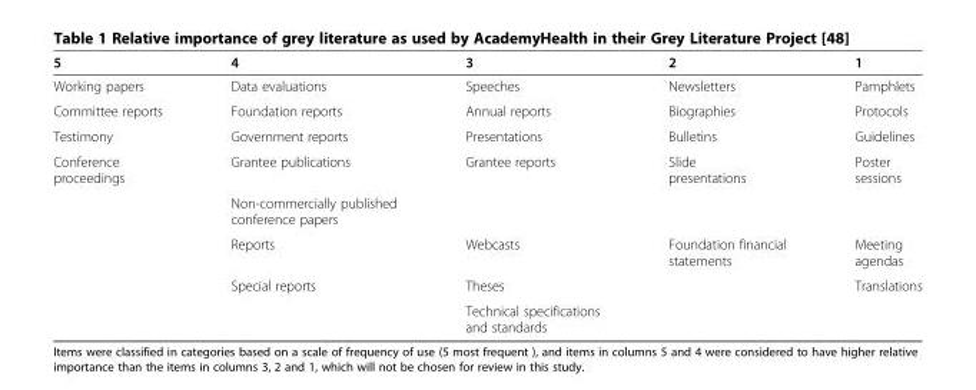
<table><thead><tr><td>5</td><td>4</td><td>3</td><td>2</td><td>1</td></tr></thead><tbody><tr><td>Working papers</td><td>Data evaluations</td><td>Speeches</td><td>Newsletters</td><td>Pamphlets</td></tr><tr><td>Committee reports</td><td>Foundation reports</td><td>Annual reports</td><td>Biographies</td><td>Protocols</td></tr><tr><td>Testimony</td><td>Government reports</td><td>Presentations</td><td>Bulletins</td><td>Guidelines</td></tr><tr><td rowspan="5">Conference proceedings</td><td>Grantee publications</td><td>Grantee reports</td><td>Slide presentations</td><td>Poster sessions</td></tr><tr><td>Non-commercially published conference papers</td><td></td><td></td><td></td></tr><tr><td>Reports</td><td>Webcasts</td><td>Foundation financial statements</td><td>Meeting agendas</td></tr><tr><td>Special reports</td><td>Theses</td><td></td><td>Translations</td></tr><tr><td></td><td>Technical specifications and standards</td><td></td><td></td></tr></tbody></table>